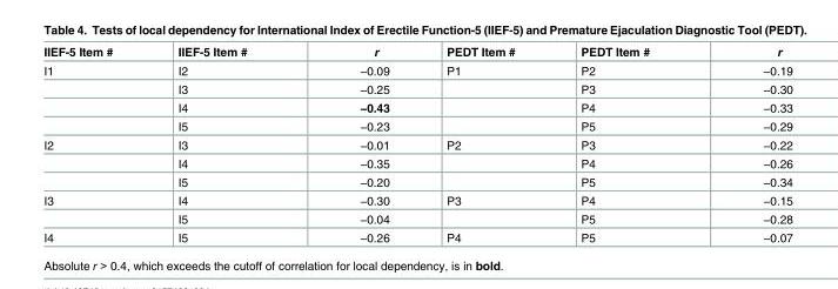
<table><thead><tr><td>IIEF-5 Item #</td><td>IIEF-5 Item #</td><td>r</td><td>PEDT Item #</td><td>PEDT Item #</td><td>r</td></tr></thead><tbody><tr><td rowspan="4">I1</td><td>I2</td><td>−0.09</td><td>P1</td><td>P2</td><td>−0.19</td></tr><tr><td>I3</td><td>−0.25</td><td></td><td>P3</td><td>−0.30</td></tr><tr><td>I4</td><td>−0.43</td><td></td><td>P4</td><td>−0.33</td></tr><tr><td>I5</td><td>−0.23</td><td></td><td>P5</td><td>−0.29</td></tr><tr><td rowspan="3">I2</td><td>I3</td><td>−0.01</td><td>P2</td><td>P3</td><td>−0.22</td></tr><tr><td>I4</td><td>−0.35</td><td></td><td>P4</td><td>−0.26</td></tr><tr><td>I5</td><td>−0.20</td><td></td><td>P5</td><td>−0.34</td></tr><tr><td rowspan="2">I3</td><td>I4</td><td>−0.30</td><td>P3</td><td>P4</td><td>−0.15</td></tr><tr><td>I5</td><td>−0.04</td><td></td><td>P5</td><td>−0.28</td></tr><tr><td>I4</td><td>I5</td><td>−0.26</td><td>P4</td><td>P5</td><td>−0.07</td></tr></tbody></table>